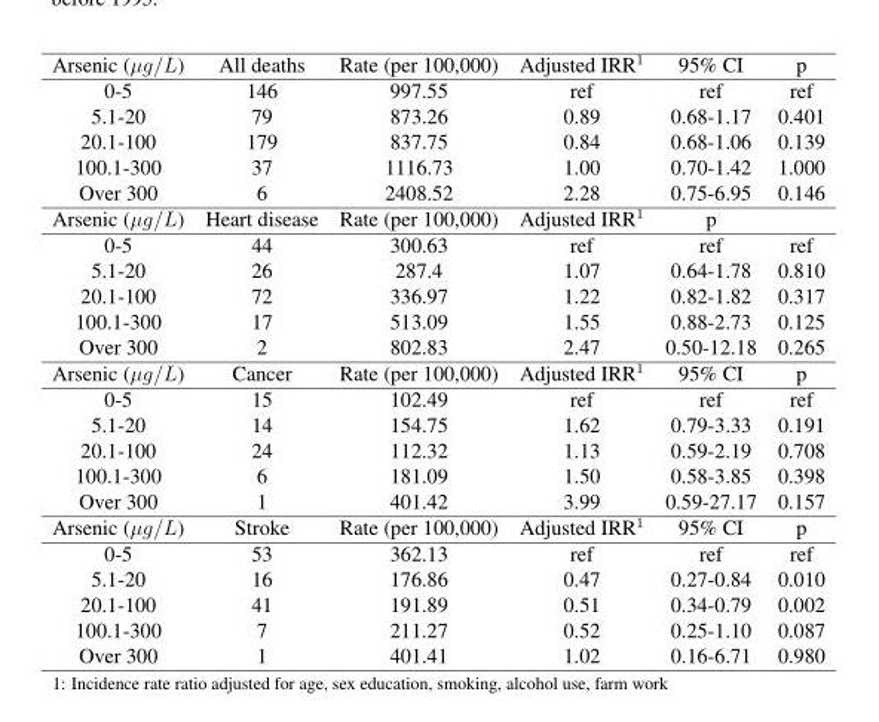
<table><tbody><tr><td>Arsenic (µg/L)</td><td>All deaths</td><td>Rate (per 100,000)</td><td>Adjusted IRR<sup>1</sup></td><td>95% CI</td><td>p</td></tr><tr><td>0-5</td><td>146</td><td>997.55</td><td>ref</td><td>ref</td><td>ref</td></tr><tr><td>5.1-20</td><td>79</td><td>873.26</td><td>0.89</td><td>0.68-1.17</td><td>0.401</td></tr><tr><td>20.1-100</td><td>179</td><td>837.75</td><td>0.84</td><td>0.68-1.06</td><td>0.139</td></tr><tr><td>100.1-300</td><td>37</td><td>1116.73</td><td>1.00</td><td>0.70-1.42</td><td>1.000</td></tr><tr><td>Over 300</td><td>6</td><td>2408.52</td><td>2.28</td><td>0.75-6.95</td><td>0.146</td></tr><tr><td>Arsenic (µg/L)</td><td>Heart disease</td><td>Rate (per 100,000)</td><td>Adjusted IRR<sup>1</sup></td><td>p</td><td></td></tr><tr><td>0-5</td><td>44</td><td>300.63</td><td>ref</td><td>ref</td><td>ref</td></tr><tr><td>5.1-20</td><td>26</td><td>287.4</td><td>1.07</td><td>0.64-1.78</td><td>0.810</td></tr><tr><td>20.1-100</td><td>72</td><td>336.97</td><td>1.22</td><td>0.82-1.82</td><td>0.317</td></tr><tr><td>100.1-300</td><td>17</td><td>513.09</td><td>1.55</td><td>0.88-2.73</td><td>0.125</td></tr><tr><td>Over 300</td><td>2</td><td>802.83</td><td>2.47</td><td>0.50-12.18</td><td>0.265</td></tr><tr><td>Arsenic (µg/L)</td><td>Cancer</td><td>Rate (per 100,000)</td><td>Adjusted IRR<sup>1</sup></td><td>95% CI</td><td>p</td></tr><tr><td>0-5</td><td>15</td><td>102.49</td><td>ref</td><td>ref</td><td>ref</td></tr><tr><td>5.1-20</td><td>14</td><td>154.75</td><td>1.62</td><td>0.79-3.33</td><td>0.191</td></tr><tr><td>20.1-100</td><td>24</td><td>112.32</td><td>1.13</td><td>0.59-2.19</td><td>0.708</td></tr><tr><td>100.1-300</td><td>6</td><td>181.09</td><td>1.50</td><td>0.58-3.85</td><td>0.398</td></tr><tr><td>Over 300</td><td>1</td><td>401.42</td><td>3.99</td><td>0.59-27.17</td><td>0.157</td></tr><tr><td>Arsenic (µg/L)</td><td>Stroke</td><td>Rate (per 100,000)</td><td>Adjusted IRR<sup>1</sup></td><td>95% CI</td><td>p</td></tr><tr><td>0-5</td><td>53</td><td>362.13</td><td>ref</td><td>ref</td><td>ref</td></tr><tr><td>5.1-20</td><td>16</td><td>176.86</td><td>0.47</td><td>0.27-0.84</td><td>0.010</td></tr><tr><td>20.1-100</td><td>41</td><td>191.89</td><td>0.51</td><td>0.34-0.79</td><td>0.002</td></tr><tr><td>100.1-300</td><td>7</td><td>211.27</td><td>0.52</td><td>0.25-1.10</td><td>0.087</td></tr><tr><td>Over 300</td><td>1</td><td>401.41</td><td>1.02</td><td>0.16-6.71</td><td>0.980</td></tr></tbody></table>